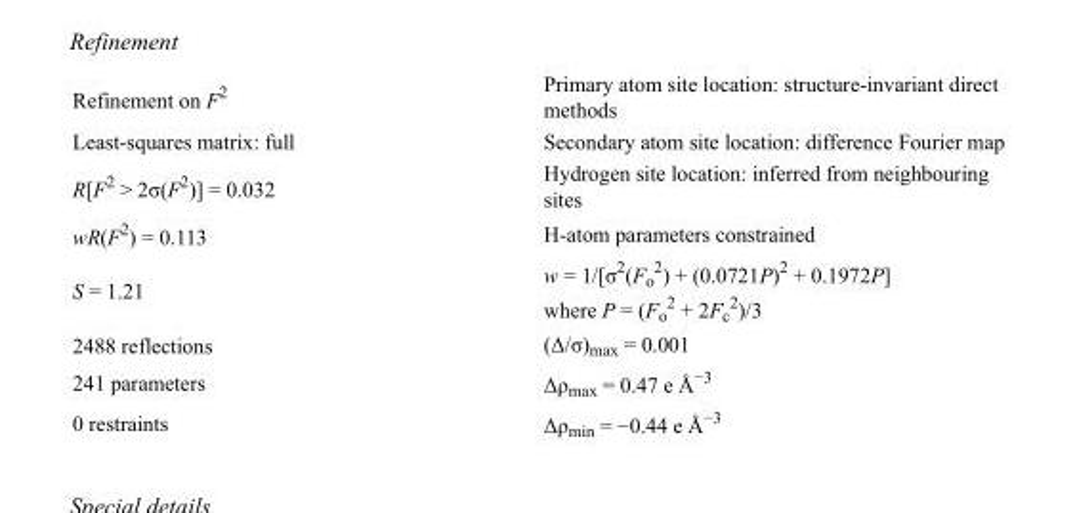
<table><tbody><tr><td>Refinement on F<sup>2</sup></td><td>Primary atom site location: structure-invariant direct methods</td></tr><tr><td>Least-squares matrix: full</td><td>Secondary atom site location: difference Fourier map</td></tr><tr><td>R[F<sup>2</sup> &gt; 2σ(F<sup>2</sup>)] = 0.032</td><td>Hydrogen site location: inferred from neighbouring sites</td></tr><tr><td>wR(F<sup>2</sup>) = 0.113</td><td>H-atom parameters constrained</td></tr><tr><td>S = 1.21</td><td>w = 1/[σ<sup>2</sup>(F<sub>o</sub> <sup>2</sup>) + (0.0721P)<sup>2</sup> + 0.1972P] where P = (F<sub>o</sub> <sup>2</sup> + 2F<sub>c</sub> <sup>2</sup>)/3</td></tr><tr><td>2488 reflections</td><td>(Δ/σ)<sub>max</sub> = 0.001</td></tr><tr><td>241 parameters</td><td>Δρ<sub>max</sub> = 0.47 e Å<sup>−3</sup></td></tr><tr><td>0 restraints</td><td>Δρ<sub>min</sub> = −0.44 e Å<sup>−3</sup></td></tr></tbody></table>